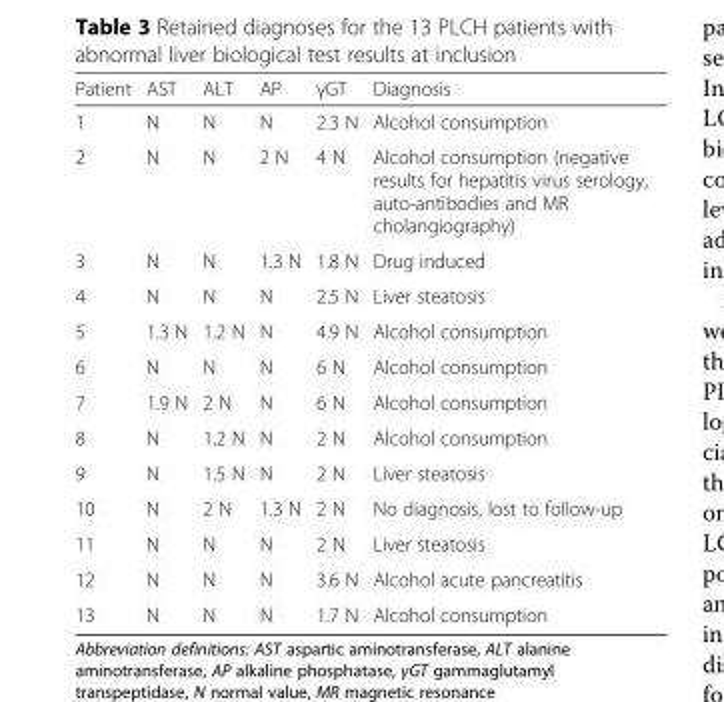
<table><thead><tr><td>Patient</td><td>AST</td><td>ALT</td><td>AP</td><td>γGT</td><td>Diagnosis</td></tr></thead><tbody><tr><td>1</td><td>N</td><td>N</td><td>N</td><td>2.3 N</td><td>Alcohol consumption</td></tr><tr><td>2</td><td>N</td><td>N</td><td>2 N</td><td>4 N</td><td>Alcohol consumption (negative results for hepatitis virus serology, auto-antibodies and MR cholangiography)</td></tr><tr><td>3</td><td>N</td><td>N</td><td>1.3 N</td><td>1.8 N</td><td>Drug induced</td></tr><tr><td>4</td><td>N</td><td>N</td><td>N</td><td>2.5 N</td><td>Liver steatosis</td></tr><tr><td>5</td><td>1.3 N</td><td>1.2 N</td><td>N</td><td>4.9 N</td><td>Alcohol consumption</td></tr><tr><td>6</td><td>N</td><td>N</td><td>N</td><td>6 N</td><td>Alcohol consumption</td></tr><tr><td>7</td><td>1.9 N</td><td>2 N</td><td>N</td><td>6 N</td><td>Alcohol consumption</td></tr><tr><td>8</td><td>N</td><td>1.2 N</td><td>N</td><td>2 N</td><td>Alcohol consumption</td></tr><tr><td>9</td><td>N</td><td>1.5 N</td><td>N</td><td>2 N</td><td>Liver steatosis</td></tr><tr><td>10</td><td>N</td><td>2 N</td><td>1.3 N</td><td>2 N</td><td>No diagnosis, lost to follow-up</td></tr><tr><td>11</td><td>N</td><td>N</td><td>N</td><td>2 N</td><td>Liver steatosis</td></tr><tr><td>12</td><td>N</td><td>N</td><td>N</td><td>3.6 N</td><td>Alcohol acute pancreatitis</td></tr><tr><td>13</td><td>N</td><td>N</td><td>N</td><td>1.7 N</td><td>Alcohol consumption</td></tr></tbody></table>